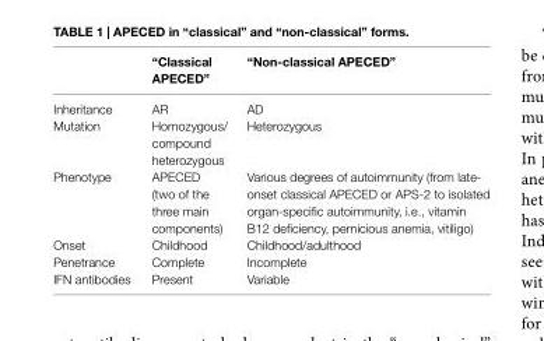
<table><thead><tr><td></td><td>“Classical APeCeD”</td><td>“non-classical APeCeD”</td></tr></thead><tbody><tr><td>Inheritance</td><td>AR</td><td>AD</td></tr><tr><td>Mutation</td><td>Homozygous/ compound heterozygous</td><td>Heterozygous</td></tr><tr><td>Phenotype</td><td>APECED (two of the three main components)</td><td>Various degrees of autoimmunity (from late- onset classical APECED or APS-2 to isolated organ-specific autoimmunity, i.e., vitamin B12 deficiency, pernicious anemia, vitiligo)</td></tr><tr><td>Onset</td><td>Childhood</td><td>Childhood/adulthood</td></tr><tr><td>Penetrance</td><td>Complete</td><td>Incomplete</td></tr><tr><td>IFN antibodies</td><td>Present</td><td>Variable</td></tr></tbody></table>